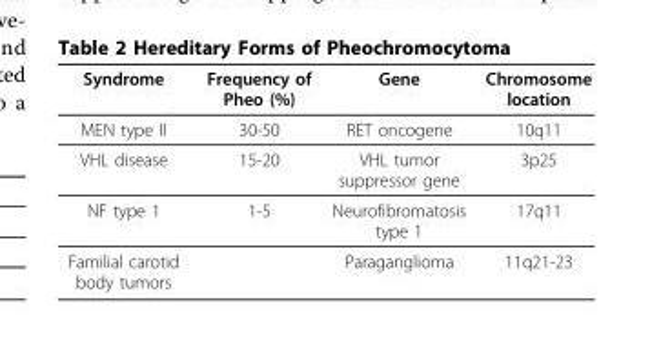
<table><thead><tr><td>Syndrome</td><td>Frequency of Pheo (%)</td><td>Gene</td><td>Chromosome location</td></tr></thead><tbody><tr><td>MEN type II</td><td>30-50</td><td>RET oncogene</td><td>10q11</td></tr><tr><td>VHL disease</td><td>15-20</td><td>VHL tumor suppressor gene</td><td>3p25</td></tr><tr><td>NF type 1</td><td>1-5</td><td>Neurofibromatosis type 1</td><td>17q11</td></tr><tr><td>Familial carotid body tumors</td><td></td><td>Paraganglioma</td><td>11q21-23</td></tr></tbody></table>